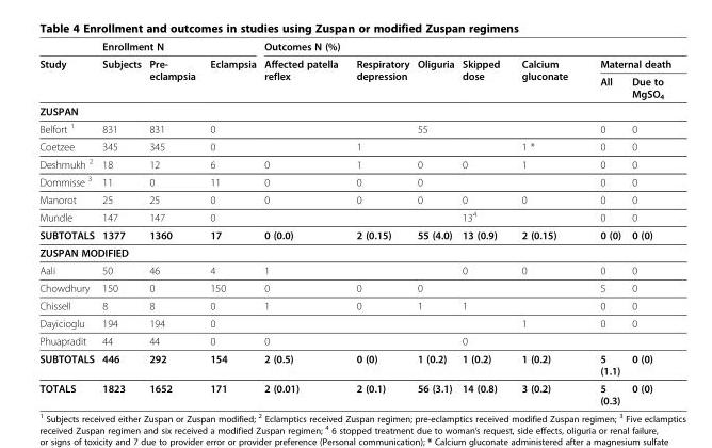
<table><thead><tr><td rowspan="3">Study</td><td colspan="3">Enrollment N</td><td colspan="7">Outcomes N (%)</td></tr><tr><td rowspan="2">Subjects</td><td rowspan="2">Pre- eclampsia</td><td rowspan="2">Eclampsia</td><td rowspan="2">Affected patella reflex</td><td rowspan="2">Respiratory depression</td><td rowspan="2">Oliguria</td><td rowspan="2">Skipped dose</td><td rowspan="2">Calcium gluconate</td><td colspan="2">Maternal death</td></tr><tr><td>All</td><td>Due to MgSO<sub>4</sub></td></tr></thead><tbody><tr><td colspan="11">ZUSPAN</td></tr><tr><td>Belfort <sup>1</sup></td><td>831</td><td>831</td><td>0</td><td></td><td></td><td>55</td><td></td><td></td><td>0</td><td>0</td></tr><tr><td>Coetzee</td><td>345</td><td>345</td><td>0</td><td></td><td>1</td><td></td><td></td><td>1 *</td><td>0</td><td>0</td></tr><tr><td>Deshmukh <sup>2</sup></td><td>18</td><td>12</td><td>6</td><td>0</td><td>1</td><td>0</td><td>0</td><td>1</td><td>0</td><td>0</td></tr><tr><td>Dommisse <sup>3</sup></td><td>11</td><td>0</td><td>11</td><td>0</td><td>0</td><td>0</td><td></td><td></td><td>0</td><td>0</td></tr><tr><td>Manorot</td><td>25</td><td>25</td><td>0</td><td>0</td><td>0</td><td>0</td><td>0</td><td>0</td><td>0</td><td>0</td></tr><tr><td>Mundle</td><td>147</td><td>147</td><td>0</td><td></td><td></td><td></td><td>13<sup>4</sup></td><td></td><td>0</td><td>0</td></tr><tr><td>SUBTOTALS</td><td>1377</td><td>1360</td><td>17</td><td>0 (0.0)</td><td>2 (0.15)</td><td>55 (4.0)</td><td>13 (0.9)</td><td>2 (0.15)</td><td>0 (0)</td><td>0 (0)</td></tr><tr><td colspan="11">ZUSPAN MODIFIED</td></tr><tr><td>Aali</td><td>50</td><td>46</td><td>4</td><td>1</td><td></td><td></td><td>0</td><td>0</td><td>0</td><td>0</td></tr><tr><td>Chowdhury</td><td>150</td><td>0</td><td>150</td><td>0</td><td>0</td><td>0</td><td></td><td></td><td>5</td><td>0</td></tr><tr><td>Chissell</td><td>8</td><td>8</td><td>0</td><td>1</td><td>0</td><td>1</td><td>1</td><td></td><td>0</td><td>0</td></tr><tr><td>Dayicioglu</td><td>194</td><td>194</td><td>0</td><td></td><td></td><td></td><td></td><td>1</td><td>0</td><td>0</td></tr><tr><td>Phuapradit</td><td>44</td><td>44</td><td>0</td><td>0</td><td></td><td></td><td>0</td><td></td><td></td><td></td></tr><tr><td>SUBTOTALS</td><td>446</td><td>292</td><td>154</td><td>2 (0.5)</td><td>0 (0)</td><td>1 (0.2)</td><td>1 (0.2)</td><td>1 (0.2)</td><td>5 (1.1)</td><td>0 (0)</td></tr><tr><td>TOTALS</td><td>1823</td><td>1652</td><td>171</td><td>2 (0.01)</td><td>2 (0.1)</td><td>56 (3.1)</td><td>14 (0.8)</td><td>3 (0.2)</td><td>5 (0.3)</td><td>0 (0)</td></tr></tbody></table>